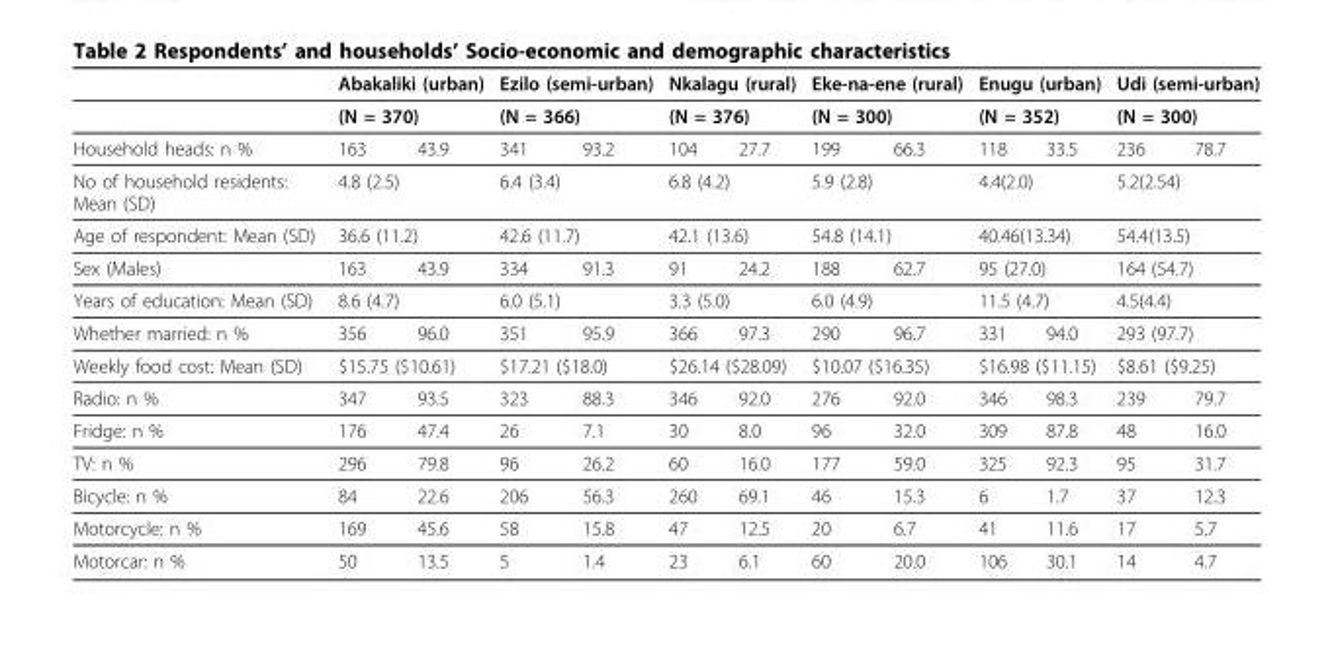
<table><thead><tr><td rowspan="3">Household heads: n %</td><td rowspan="2" colspan="2">Abakaliki (urban) (N = 370)</td><td rowspan="2" colspan="2">Ezilo (semi-urban) (N = 366)</td><td rowspan="2" colspan="2">Nkalagu (rural) (N = 376)</td><td rowspan="2" colspan="2">Eke-na-ene (rural) (N = 300)</td><td rowspan="2" colspan="2">Enugu (urban) (N = 352)</td><td rowspan="2" colspan="2">Udi (semi-urban) (N = 300)</td></tr><tr></tr><tr><td>163</td><td>43.9</td><td>341</td><td>93.2</td><td>104</td><td>27.7</td><td>199</td><td>66.3</td><td>118</td><td>33.5</td><td>236</td><td>78.7</td></tr></thead><tbody><tr><td>No of household residents: Mean (SD)</td><td colspan="2">4.8 (2.5)</td><td colspan="2">6.4 (3.4)</td><td colspan="2">6.8 (4.2)</td><td colspan="2">5.9 (2.8)</td><td colspan="2">4.4(2.0)</td><td colspan="2">5.2(2.54)</td></tr><tr><td>Age of respondent: Mean (SD)</td><td colspan="2">36.6 (11.2)</td><td colspan="2">42.6 (11.7)</td><td colspan="2">42.1 (13.6)</td><td colspan="2">54.8 (14.1)</td><td colspan="2">40.46(13.34)</td><td colspan="2">54.4(13.5)</td></tr><tr><td>Sex (Males)</td><td>163</td><td>43.9</td><td>334</td><td>91.3</td><td>91</td><td>24.2</td><td>188</td><td>62.7</td><td colspan="2">95 (27.0)</td><td colspan="2">164 (54.7)</td></tr><tr><td>Years of education: Mean (SD)</td><td colspan="2">8.6 (4.7)</td><td colspan="2">6.0 (5.1)</td><td colspan="2">3.3 (5.0)</td><td colspan="2">6.0 (4.9)</td><td colspan="2">11.5 (4.7)</td><td colspan="2">4.5(4.4)</td></tr><tr><td>Whether married: n %</td><td>356</td><td>96.0</td><td>351</td><td>95.9</td><td>366</td><td>97.3</td><td>290</td><td>96.7</td><td>331</td><td>94.0</td><td colspan="2">293 (97.7)</td></tr><tr><td>Weekly food cost: Mean (SD)</td><td colspan="2">$15.75 ($10.61)</td><td colspan="2">$17.21 ($18.0)</td><td colspan="2">$26.14 ($28.09)</td><td colspan="2">$10.07 ($16.35)</td><td colspan="2">$16.98 ($11.15)</td><td colspan="2">$8.61 ($9.25)</td></tr><tr><td>Radio: n %</td><td>347</td><td>93.5</td><td>323</td><td>88.3</td><td>346</td><td>92.0</td><td>276</td><td>92.0</td><td>346</td><td>98.3</td><td>239</td><td>79.7</td></tr><tr><td>Fridge: n %</td><td>176</td><td>47.4</td><td>26</td><td>7.1</td><td>30</td><td>8.0</td><td>96</td><td>32.0</td><td>309</td><td>87.8</td><td>48</td><td>16.0</td></tr><tr><td>TV: n %</td><td>296</td><td>79.8</td><td>96</td><td>26.2</td><td>60</td><td>16.0</td><td>177</td><td>59.0</td><td>325</td><td>92.3</td><td>95</td><td>31.7</td></tr><tr><td>Bicycle: n %</td><td>84</td><td>22.6</td><td>206</td><td>56.3</td><td>260</td><td>69.1</td><td>46</td><td>15.3</td><td>6</td><td>1.7</td><td>37</td><td>12.3</td></tr><tr><td>Motorcycle: n %</td><td>169</td><td>45.6</td><td>58</td><td>15.8</td><td>47</td><td>12.5</td><td>20</td><td>6.7</td><td>41</td><td>11.6</td><td>17</td><td>5.7</td></tr><tr><td>Motorcar: n %</td><td>50</td><td>13.5</td><td>5</td><td>1.4</td><td>23</td><td>6.1</td><td>60</td><td>20.0</td><td>106</td><td>30.1</td><td>14</td><td>4.7</td></tr></tbody></table>